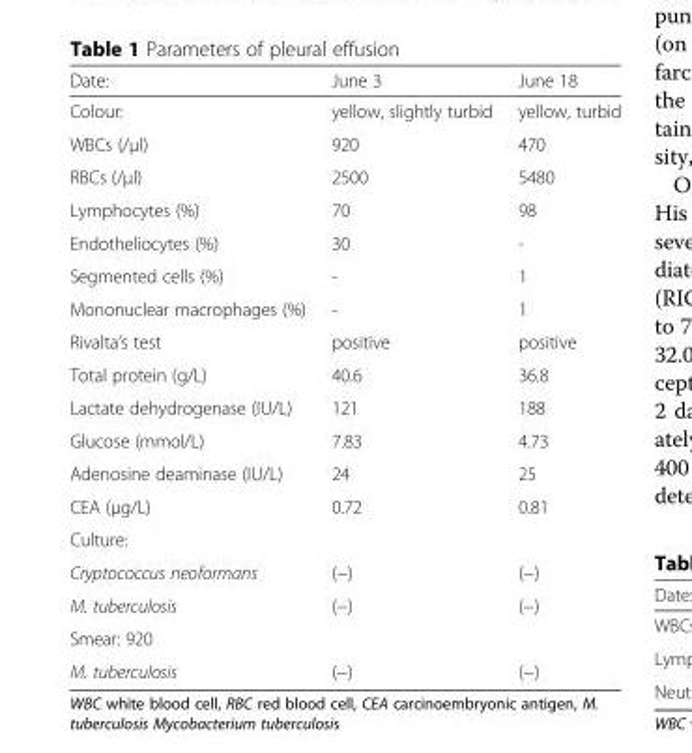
<table><thead><tr><td>Date:</td><td>June 3</td><td>June 18</td></tr></thead><tbody><tr><td>Colour:</td><td>yellow, slightly turbid</td><td>yellow, turbid</td></tr><tr><td>WBCs (/μl)</td><td>920</td><td>470</td></tr><tr><td>RBCs (/μl)</td><td>2500</td><td>5480</td></tr><tr><td>Lymphocytes (%)</td><td>70</td><td>98</td></tr><tr><td>Endotheliocytes (%)</td><td>30</td><td>-</td></tr><tr><td>Segmented cells (%)</td><td>-</td><td>1</td></tr><tr><td>Mononuclear macrophages (%)</td><td>-</td><td>1</td></tr><tr><td>Rivalta’s test</td><td>positive</td><td>positive</td></tr><tr><td>Total protein (g/L)</td><td>40.6</td><td>36.8</td></tr><tr><td>Lactate dehydrogenase (IU/L)</td><td>121</td><td>188</td></tr><tr><td>Glucose (mmol/L)</td><td>7.83</td><td>4.73</td></tr><tr><td>Adenosine deaminase (IU/L)</td><td>24</td><td>25</td></tr><tr><td>CEA (μg/L)</td><td>0.72</td><td>0.81</td></tr><tr><td colspan="3">Culture:</td></tr><tr><td>Cryptococcus neoformans</td><td>(−)</td><td>(−)</td></tr><tr><td>M. tuberculosis</td><td>(−)</td><td>(−)</td></tr><tr><td colspan="3">Smear: 920</td></tr><tr><td>M. tuberculosis</td><td>(−)</td><td>(−)</td></tr></tbody></table>